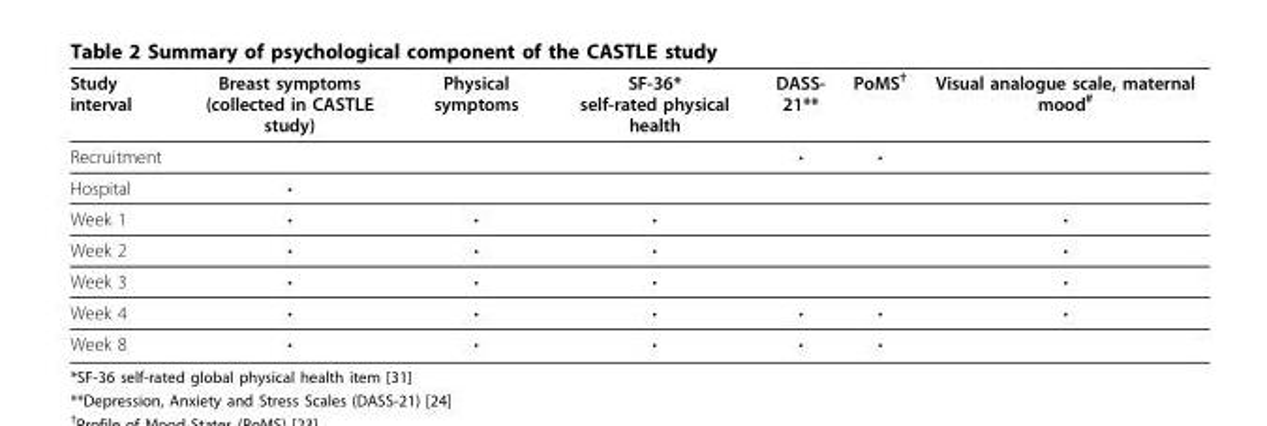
<table><thead><tr><td>Study interval</td><td>Breast symptoms (collected in CASTLE study)</td><td>Physical symptoms</td><td>SF-36* self-rated physical health</td><td>DASS- 21**</td><td>PoMS<sup>†</sup></td><td>Visual analogue scale, maternal mood<sup>#</sup></td></tr></thead><tbody><tr><td>Recruitment</td><td></td><td></td><td></td><td>•</td><td>•</td><td></td></tr><tr><td>Hospital</td><td>•</td><td></td><td></td><td></td><td></td><td></td></tr><tr><td>Week 1</td><td>•</td><td>•</td><td>•</td><td></td><td></td><td>•</td></tr><tr><td>Week 2</td><td>•</td><td>•</td><td>•</td><td></td><td></td><td>•</td></tr><tr><td>Week 3</td><td>•</td><td>•</td><td>•</td><td></td><td></td><td>•</td></tr><tr><td>Week 4</td><td>•</td><td>•</td><td>•</td><td>•</td><td>•</td><td>•</td></tr><tr><td>Week 8</td><td>•</td><td>•</td><td>•</td><td>•</td><td>•</td><td></td></tr></tbody></table>